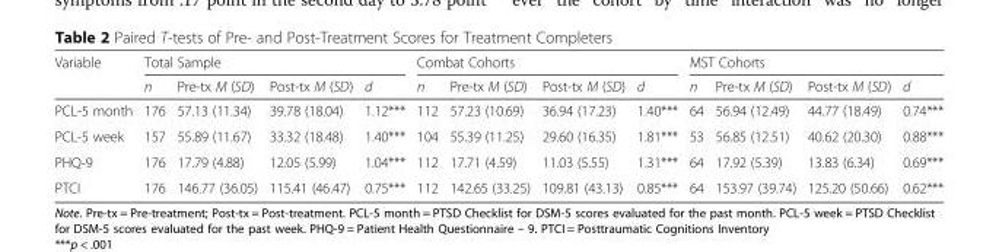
<table><thead><tr><td rowspan="2">Variable</td><td colspan="4">Total Sample</td><td colspan="4">Combat Cohorts</td><td colspan="4">MST Cohorts</td></tr><tr><td>n</td><td>Pre-tx M (SD)</td><td>Post-tx M (SD)</td><td>d</td><td>n</td><td>Pre-tx M (SD)</td><td>Post-tx M (SD)</td><td>d</td><td>n</td><td>Pre-tx M (SD)</td><td>Post-tx M (SD)</td><td>d</td></tr></thead><tbody><tr><td>PCL-5 month</td><td>176</td><td>57.13 (11.34)</td><td>39.78 (18.04)</td><td>1.12***</td><td>112</td><td>57.23 (10.69)</td><td>36.94 (17.23)</td><td>1.40***</td><td>64</td><td>56.94 (12.49)</td><td>44.77 (18.49)</td><td>0.74***</td></tr><tr><td>PCL-5 week</td><td>157</td><td>55.89 (11.67)</td><td>33.32 (18.48)</td><td>1.40***</td><td>104</td><td>55.39 (11.25)</td><td>29.60 (16.35)</td><td>1.81***</td><td>53</td><td>56.85 (12.51)</td><td>40.62 (20.30)</td><td>0.88***</td></tr><tr><td>PHQ-9</td><td>176</td><td>17.79 (4.88)</td><td>12.05 (5.99)</td><td>1.04***</td><td>112</td><td>17.71 (4.59)</td><td>11.03 (5.55)</td><td>1.31***</td><td>64</td><td>17.92 (5.39)</td><td>13.83 (6.34)</td><td>0.69***</td></tr><tr><td>PTCI</td><td>176</td><td>146.77 (36.05)</td><td>115.41 (46.47)</td><td>0.75***</td><td>112</td><td>142.65 (33.25)</td><td>109.81 (43.13)</td><td>0.85***</td><td>64</td><td>153.97 (39.74)</td><td>125.20 (50.66)</td><td>0.62***</td></tr></tbody></table>